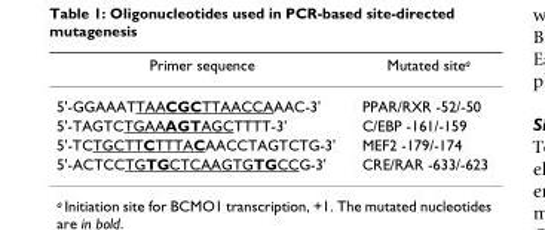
<table><thead><tr><td>Primer sequence</td><td>Mutated sitea</td></tr></thead><tbody><tr><td>5&#x27;-GGAAATTAACGCTTAACCAAAC-3&#x27;</td><td>PPAR/RXR -52/-50</td></tr><tr><td>5&#x27;-TAGTCTGAAAGTAGCTTTT-3&#x27;</td><td>C/EBP -161/-159</td></tr><tr><td>5&#x27;-TCTGCTTCTTTACAACCTAGTCTG-3&#x27;</td><td>MEF2 -179/-174</td></tr><tr><td>5&#x27;-ACTCCTGTGCTCAAGTGTGCCG-3&#x27;</td><td>CRE/RAR -633/-623</td></tr></tbody></table>